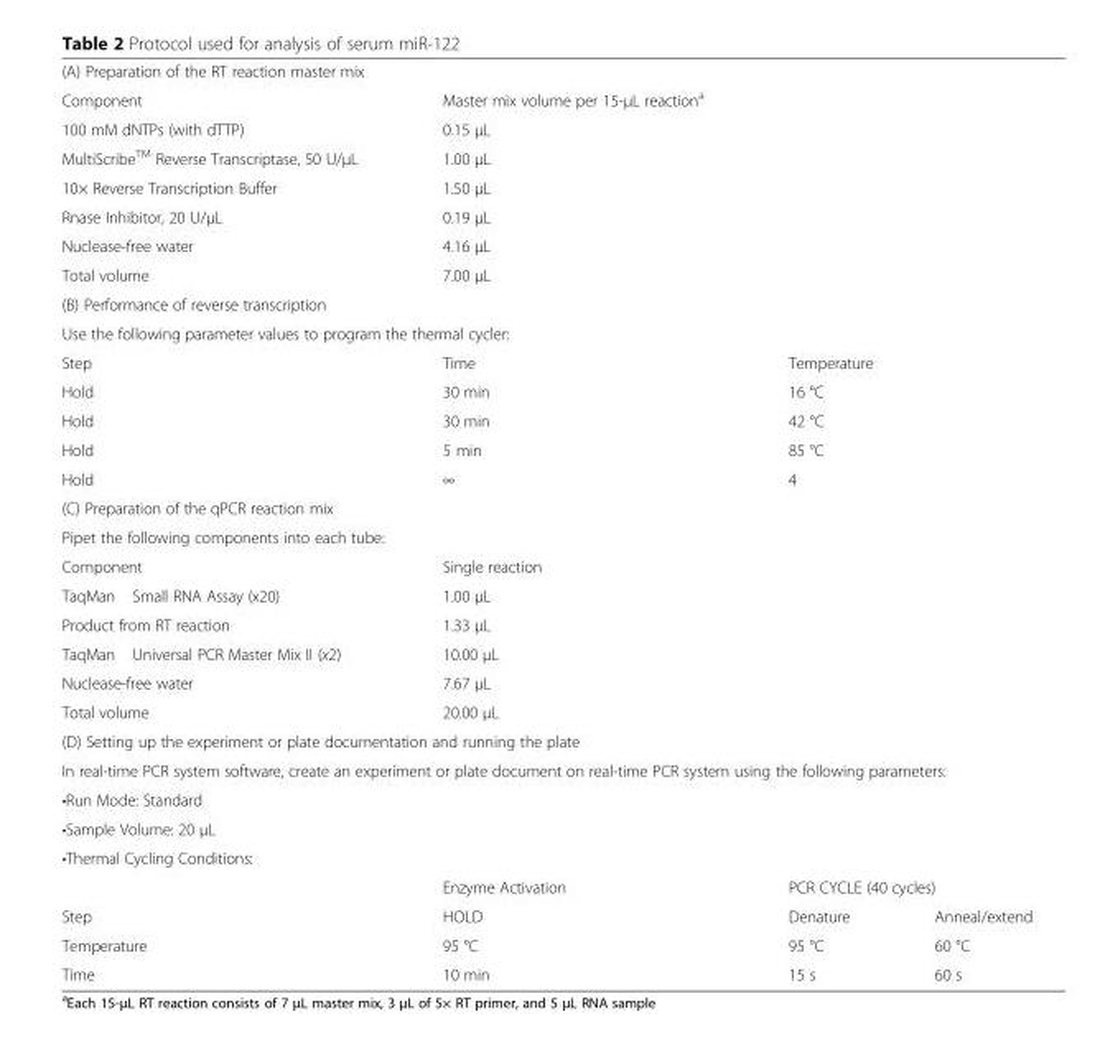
<table><tbody><tr><td colspan="4">(A) Preparation of the RT reaction master mix</td></tr><tr><td>Component</td><td>Master mix volume per 15-μL reaction<sup>a</sup></td><td colspan="2"></td></tr><tr><td>100 mM dNTPs (with dTTP)</td><td>0.15 μL</td><td colspan="2"></td></tr><tr><td>MultiScribe<sup>TM</sup> Reverse Transcriptase, 50 U/μL</td><td>1.00 μL</td><td colspan="2"></td></tr><tr><td>10× Reverse Transcription Buffer</td><td>1.50 μL</td><td colspan="2"></td></tr><tr><td>Rnase Inhibitor, 20 U/μL</td><td>0.19 μL</td><td colspan="2"></td></tr><tr><td>Nuclease-free water</td><td>4.16 μL</td><td colspan="2"></td></tr><tr><td>Total volume</td><td>7.00 μL</td><td colspan="2"></td></tr><tr><td colspan="4">(B) Performance of reverse transcription</td></tr><tr><td colspan="4">Use the following parameter values to program the thermal cycler:</td></tr><tr><td>Step</td><td>Time</td><td colspan="2">Temperature</td></tr><tr><td>Hold</td><td>30 min</td><td colspan="2">16 °C</td></tr><tr><td>Hold</td><td>30 min</td><td colspan="2">42 °C</td></tr><tr><td>Hold</td><td>5 min</td><td colspan="2">85 °C</td></tr><tr><td>Hold</td><td>∞</td><td colspan="2">4</td></tr><tr><td colspan="4">(C) Preparation of the qPCR reaction mix</td></tr><tr><td colspan="4">Pipet the following components into each tube:</td></tr><tr><td>Component</td><td>Single reaction</td><td colspan="2"></td></tr><tr><td>TaqMan Small RNA Assay (x20)</td><td>1.00 μL</td><td colspan="2"></td></tr><tr><td>Product from RT reaction</td><td>1.33 μL</td><td colspan="2"></td></tr><tr><td>TaqMan Universal PCR Master Mix II (x2)</td><td>10.00 μL</td><td colspan="2"></td></tr><tr><td>Nuclease-free water</td><td>7.67 μL</td><td colspan="2"></td></tr><tr><td>Total volume</td><td>20.00 μL</td><td colspan="2"></td></tr><tr><td colspan="4">(D) Setting up the experiment or plate documentation and running the plate</td></tr><tr><td colspan="4">In real-time PCR system software, create an experiment or plate document on real-time PCR system using the following parameters:</td></tr><tr><td colspan="4">•Run Mode: Standard</td></tr><tr><td colspan="4">•Sample Volume: 20 μL</td></tr><tr><td colspan="4">•Thermal Cycling Conditions:</td></tr><tr><td></td><td>Enzyme Activation</td><td colspan="2">PCR CYCLE (40 cycles)</td></tr><tr><td>Step</td><td>HOLD</td><td>Denature</td><td>Anneal/extend</td></tr><tr><td>Temperature</td><td>95 °C</td><td>95 °C</td><td>60 °C</td></tr><tr><td>Time</td><td>10 min</td><td>15 s</td><td>60 s</td></tr></tbody></table>